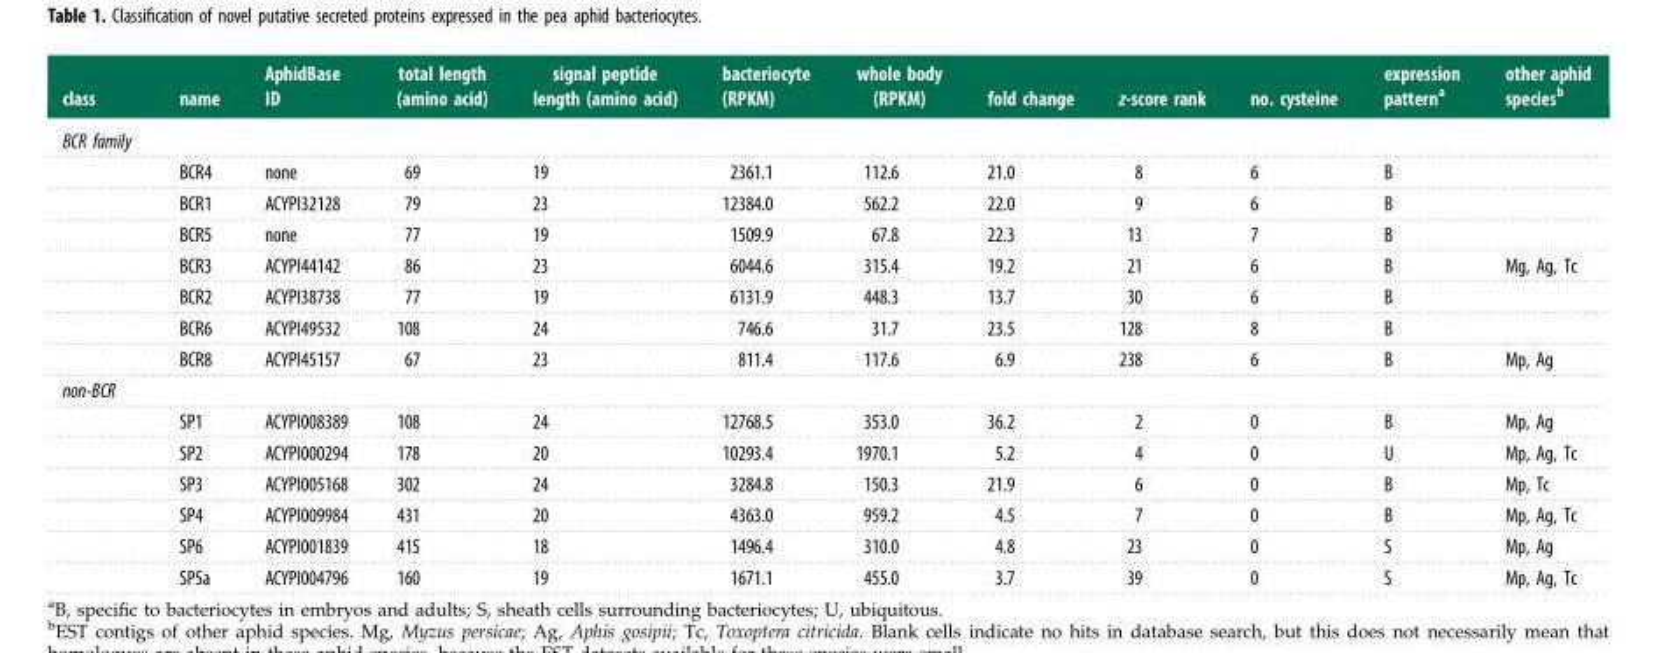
<table><thead><tr><td>class</td><td>name</td><td>AphidBase ID</td><td>total length (amino acid)</td><td>signal peptide length (amino acid)</td><td>bacteriocyte (RPKM)</td><td>whole body (RPKM)</td><td>fold change</td><td>z-score rank</td><td>no. cysteine</td><td>expression pattern<sup>a</sup></td><td>other aphid species<sup>b</sup></td></tr></thead><tbody><tr><td colspan="12">BCR family</td></tr><tr><td></td><td>BCR4</td><td>none</td><td>69</td><td>19</td><td>2361.1</td><td>112.6</td><td>21.0</td><td>8</td><td>6</td><td>B</td><td></td></tr><tr><td></td><td>BCR1</td><td>ACYPI32128</td><td>79</td><td>23</td><td>12384.0</td><td>562.2</td><td>22.0</td><td>9</td><td>6</td><td>B</td><td></td></tr><tr><td></td><td>BCR5</td><td>none</td><td>77</td><td>19</td><td>1509.9</td><td>67.8</td><td>22.3</td><td>13</td><td>7</td><td>B</td><td></td></tr><tr><td></td><td>BCR3</td><td>ACYPI44142</td><td>86</td><td>23</td><td>6044.6</td><td>315.4</td><td>19.2</td><td>21</td><td>6</td><td>B</td><td>Mg, Ag, Tc</td></tr><tr><td></td><td>BCR2</td><td>ACYPI38738</td><td>77</td><td>19</td><td>6131.9</td><td>448.3</td><td>13.7</td><td>30</td><td>6</td><td>B</td><td></td></tr><tr><td></td><td>BCR6</td><td>ACYPI49532</td><td>108</td><td>24</td><td>746.6</td><td>31.7</td><td>23.5</td><td>128</td><td>8</td><td>B</td><td></td></tr><tr><td></td><td>BCR8</td><td>ACYPI45157</td><td>67</td><td>23</td><td>811.4</td><td>117.6</td><td>6.9</td><td>238</td><td>6</td><td>B</td><td>Mp, Ag</td></tr><tr><td colspan="12">non-BCR</td></tr><tr><td></td><td>SP1</td><td>ACYPI008389</td><td>108</td><td>24</td><td>12768.5</td><td>353.0</td><td>36.2</td><td>2</td><td>0</td><td>B</td><td>Mp, Ag</td></tr><tr><td></td><td>SP2</td><td>ACYPI000294</td><td>178</td><td>20</td><td>10293.4</td><td>1970.1</td><td>5.2</td><td>4</td><td>0</td><td>U</td><td>Mp, Ag, Tc</td></tr><tr><td></td><td>SP3</td><td>ACYPI005168</td><td>302</td><td>24</td><td>3284.8</td><td>150.3</td><td>21.9</td><td>6</td><td>0</td><td>B</td><td>Mp, Tc</td></tr><tr><td></td><td>SP4</td><td>ACYPI009984</td><td>431</td><td>20</td><td>4363.0</td><td>959.2</td><td>4.5</td><td>7</td><td>0</td><td>B</td><td>Mp, Ag, Tc</td></tr><tr><td></td><td>SP6</td><td>ACYPI001839</td><td>415</td><td>18</td><td>1496.4</td><td>310.0</td><td>4.8</td><td>23</td><td>0</td><td>S</td><td>Mp, Ag</td></tr><tr><td></td><td>SP5a</td><td>ACYPI004796</td><td>160</td><td>19</td><td>1671.1</td><td>455.0</td><td>3.7</td><td>39</td><td>0</td><td>S</td><td>Mp, Ag, Tc</td></tr></tbody></table>